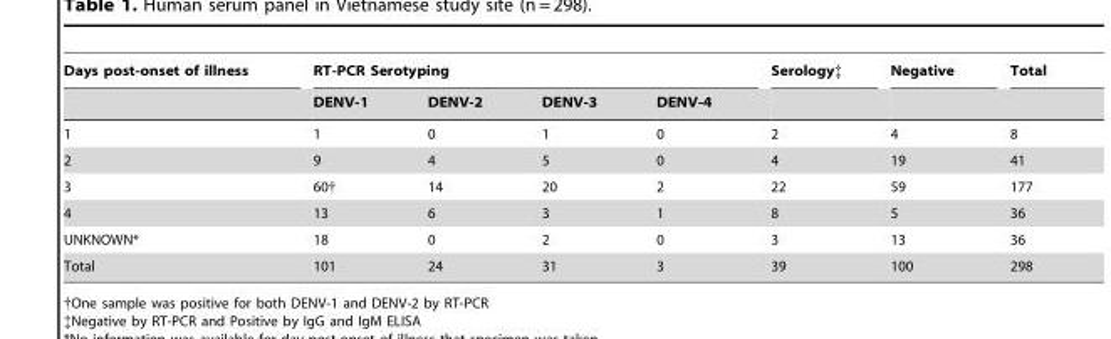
<table><thead><tr><td rowspan="2">Days post-onset of illness</td><td colspan="4">RT-PCR Serotyping</td><td rowspan="2">Serology‡</td><td rowspan="2">Negative</td><td rowspan="2">Total</td></tr><tr><td>DENV-1</td><td>DENV-2</td><td>DENV-3</td><td>DENV-4</td></tr></thead><tbody><tr><td>1</td><td>1</td><td>0</td><td>1</td><td>0</td><td>2</td><td>4</td><td>8</td></tr><tr><td>2</td><td>9</td><td>4</td><td>5</td><td>0</td><td>4</td><td>19</td><td>41</td></tr><tr><td>3</td><td>60†</td><td>14</td><td>20</td><td>2</td><td>22</td><td>59</td><td>177</td></tr><tr><td>4</td><td>13</td><td>6</td><td>3</td><td>1</td><td>8</td><td>5</td><td>36</td></tr><tr><td>UNKNOWN*</td><td>18</td><td>0</td><td>2</td><td>0</td><td>3</td><td>13</td><td>36</td></tr><tr><td>Total</td><td>101</td><td>24</td><td>31</td><td>3</td><td>39</td><td>100</td><td>298</td></tr></tbody></table>